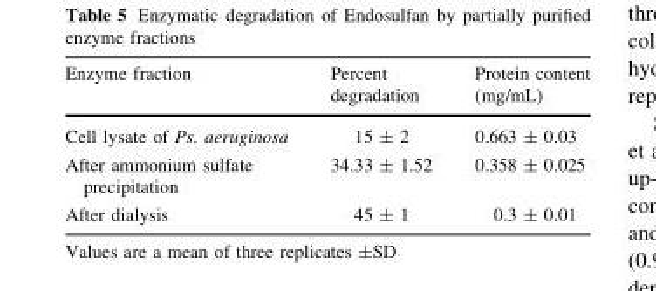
<table><thead><tr><td>Enzyme fraction</td><td>Percent degradation</td><td>Protein content (mg/mL)</td></tr></thead><tbody><tr><td>Cell lysate of Ps. aeruginosa</td><td>15 ± 2</td><td>0.663 ± 0.03</td></tr><tr><td>After ammonium sulfate precipitation</td><td>34.33 ± 1.52</td><td>0.358 ± 0.025</td></tr><tr><td>After dialysis</td><td>45 ± 1</td><td>0.3 ± 0.01</td></tr></tbody></table>